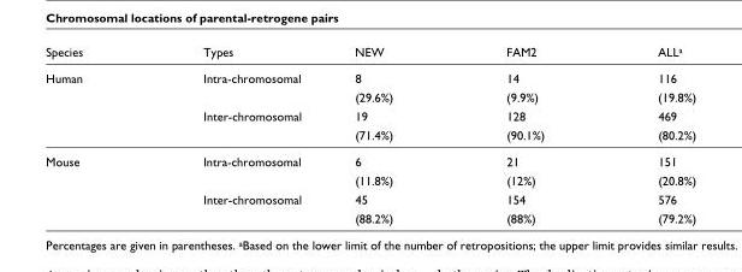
<table><thead><tr><td>Species</td><td>Types</td><td>NEW</td><td>FAM2</td><td>ALL<sup>a</sup></td></tr></thead><tbody><tr><td rowspan="4">Human</td><td>Intra-chromosomal</td><td>8</td><td>14</td><td>116</td></tr><tr><td></td><td>(29.6%)</td><td>(9.9%)</td><td>(19.8%)</td></tr><tr><td>Inter-chromosomal</td><td>19</td><td>128</td><td>469</td></tr><tr><td></td><td>(71.4%)</td><td>(90.1%)</td><td>(80.2%)</td></tr><tr><td rowspan="4">Mouse</td><td>Intra-chromosomal</td><td>6</td><td>21</td><td>151</td></tr><tr><td></td><td>(11.8%)</td><td>(12%)</td><td>(20.8%)</td></tr><tr><td>Inter-chromosomal</td><td>45</td><td>154</td><td>576</td></tr><tr><td></td><td>(88.2%)</td><td>(88%)</td><td>(79.2%)</td></tr></tbody></table>